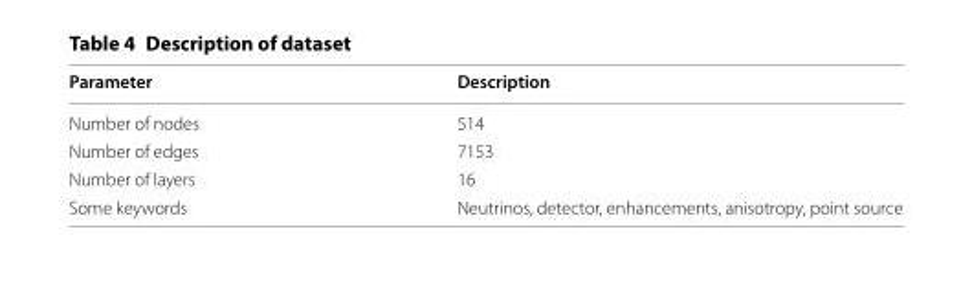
<table><thead><tr><td>Parameter</td><td>Description</td></tr></thead><tbody><tr><td>Number of nodes</td><td>514</td></tr><tr><td>Number of edges</td><td>7153</td></tr><tr><td>Number of layers</td><td>16</td></tr><tr><td>Some keywords</td><td>Neutrinos, detector, enhancements, anisotropy, point source</td></tr></tbody></table>